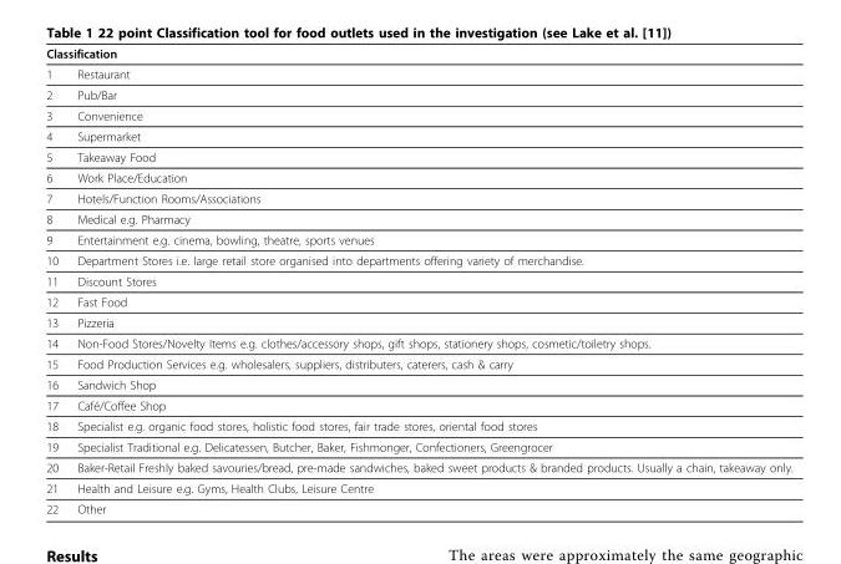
<table><thead><tr><td colspan="2">Classification</td></tr><tr><td>1</td><td>Restaurant</td></tr></thead><tbody><tr><td>2</td><td>Pub/Bar</td></tr><tr><td>3</td><td>Convenience</td></tr><tr><td>4</td><td>Supermarket</td></tr><tr><td>5</td><td>Takeaway Food</td></tr><tr><td>6</td><td>Work Place/Education</td></tr><tr><td>7</td><td>Hotels/Function Rooms/Associations</td></tr><tr><td>8</td><td>Medical e.g. Pharmacy</td></tr><tr><td>9</td><td>Entertainment e.g. cinema, bowling, theatre, sports venues</td></tr><tr><td>10</td><td>Department Stores i.e. large retail store organised into departments offering variety of merchandise.</td></tr><tr><td>11</td><td>Discount Stores</td></tr><tr><td>12</td><td>Fast Food</td></tr><tr><td>13</td><td>Pizzeria</td></tr><tr><td>14</td><td>Non-Food Stores/Novelty Items e.g. clothes/accessory shops, gift shops, stationery shops, cosmetic/toiletry shops.</td></tr><tr><td>15</td><td>Food Production Services e.g. wholesalers, suppliers, distributers, caterers, cash &amp; carry</td></tr><tr><td>16</td><td>Sandwich Shop</td></tr><tr><td>17</td><td>Café/Coffee Shop</td></tr><tr><td>18</td><td>Specialist e.g. organic food stores, holistic food stores, fair trade stores, oriental food stores</td></tr><tr><td>19</td><td>Specialist Traditional e.g. Delicatessen, Butcher, Baker, Fishmonger, Confectioners, Greengrocer</td></tr><tr><td>20</td><td>Baker-Retail Freshly baked savouries/bread, pre-made sandwiches, baked sweet products &amp; branded products. Usually a chain, takeaway only.</td></tr><tr><td>21</td><td>Health and Leisure e.g. Gyms, Health Clubs, Leisure Centre</td></tr><tr><td>22</td><td>Other</td></tr></tbody></table>